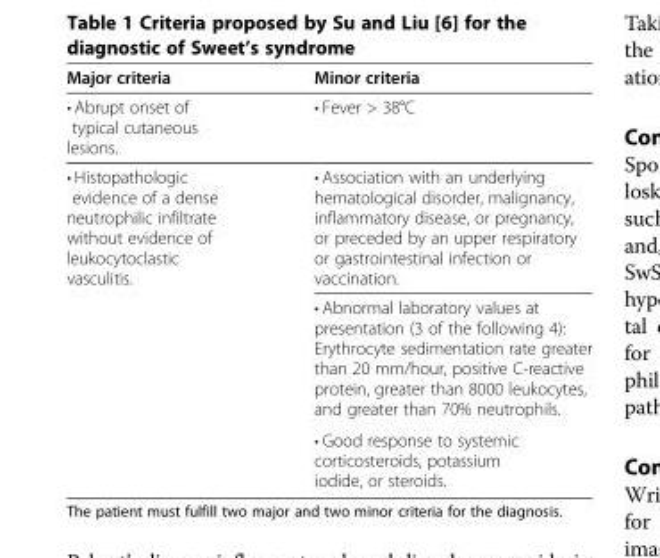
<table><thead><tr><td>Major criteria</td><td>Minor criteria</td></tr></thead><tbody><tr><td>• Abrupt onset of typical cutaneous lesions.</td><td>• Fever &gt; 38°C</td></tr><tr><td rowspan="3">• Histopathologic evidence of a dense neutrophilic infiltrate without evidence of leukocytoclastic vasculitis.</td><td>• Association with an underlying hematological disorder, malignancy, inflammatory disease, or pregnancy, or preceded by an upper respiratory or gastrointestinal infection or vaccination.</td></tr><tr><td>• Abnormal laboratory values at presentation (3 of the following 4): Erythrocyte sedimentation rate greater than 20 mm/hour, positive C-reactive protein, greater than 8000 leukocytes, and greater than 70% neutrophils.</td></tr><tr><td>• Good response to systemic corticosteroids, potassium iodide, or steroids.</td></tr></tbody></table>